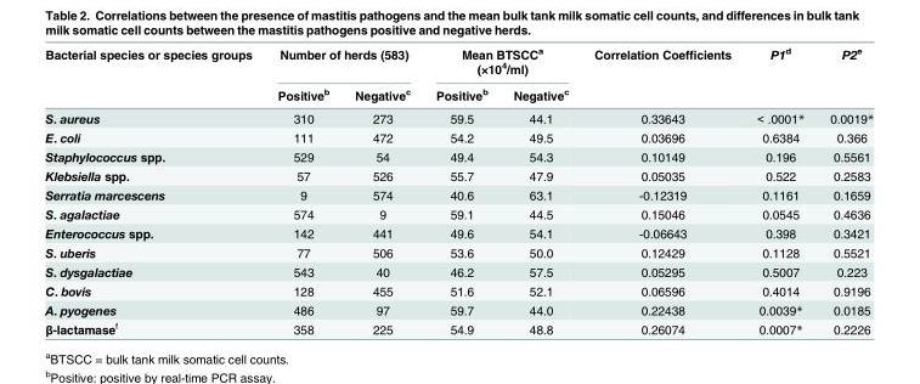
<table><thead><tr><td rowspan="2">Bacterial species or species groups</td><td colspan="2">Number of herds (583)</td><td colspan="2">Mean BTSCC<sup>a</sup> (×10<sup>4</sup>/ml)</td><td rowspan="2">Correlation Coefficients</td><td rowspan="2">P1<sup>d</sup></td><td rowspan="2">P2<sup>e</sup></td></tr><tr><td>Positive<sup>b</sup></td><td>Negative<sup>c</sup></td><td>Positive<sup>b</sup></td><td>Negative<sup>c</sup></td></tr></thead><tbody><tr><td>S. aureus</td><td>310</td><td>273</td><td>59.5</td><td>44.1</td><td>0.33643</td><td>&lt; .0001*</td><td>0.0019*</td></tr><tr><td>E. coli</td><td>111</td><td>472</td><td>54.2</td><td>49.5</td><td>0.03696</td><td>0.6384</td><td>0.366</td></tr><tr><td>Staphylococcus spp.</td><td>529</td><td>54</td><td>49.4</td><td>54.3</td><td>0.10149</td><td>0.196</td><td>0.5561</td></tr><tr><td>Klebsiella spp.</td><td>57</td><td>526</td><td>55.7</td><td>47.9</td><td>0.05035</td><td>0.522</td><td>0.2583</td></tr><tr><td>Serratia marcescens</td><td>9</td><td>574</td><td>40.6</td><td>63.1</td><td>-0.12319</td><td>0.1161</td><td>0.1659</td></tr><tr><td>S. agalactiae</td><td>574</td><td>9</td><td>59.1</td><td>44.5</td><td>0.15046</td><td>0.0545</td><td>0.4636</td></tr><tr><td>Enterococcus spp.</td><td>142</td><td>441</td><td>49.6</td><td>54.1</td><td>-0.06643</td><td>0.398</td><td>0.3421</td></tr><tr><td>S. uberis</td><td>77</td><td>506</td><td>53.6</td><td>50.0</td><td>0.12429</td><td>0.1128</td><td>0.5521</td></tr><tr><td>S. dysgalactiae</td><td>543</td><td>40</td><td>46.2</td><td>57.5</td><td>0.05295</td><td>0.5007</td><td>0.223</td></tr><tr><td>C. bovis</td><td>128</td><td>455</td><td>51.6</td><td>52.1</td><td>0.06596</td><td>0.4014</td><td>0.9196</td></tr><tr><td>A. pyogenes</td><td>486</td><td>97</td><td>59.7</td><td>44.0</td><td>0.22438</td><td>0.0039*</td><td>0.0185</td></tr><tr><td>β-lactamase<sup>f</sup></td><td>358</td><td>225</td><td>54.9</td><td>48.8</td><td>0.26074</td><td>0.0007*</td><td>0.2226</td></tr></tbody></table>